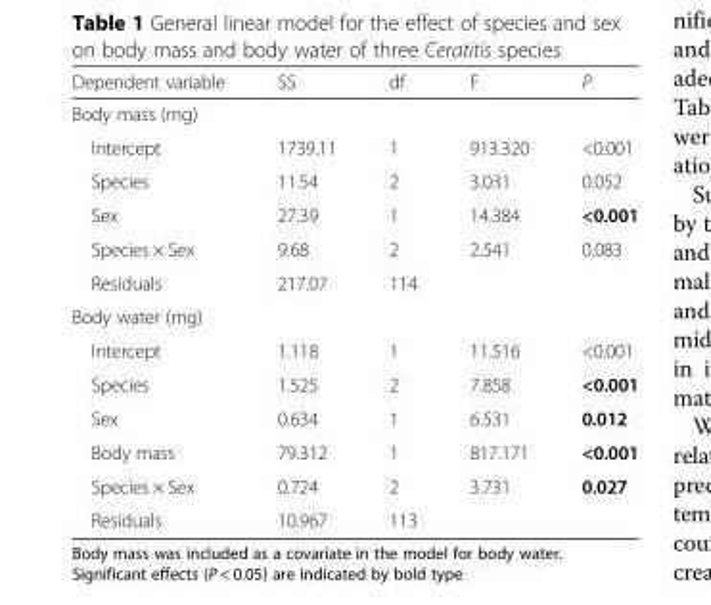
<table><thead><tr><td>Dependent variable</td><td>SS</td><td>df</td><td>F</td><td>P</td></tr></thead><tbody><tr><td colspan="5">Body mass (mg)</td></tr><tr><td>Intercept</td><td>1739.11</td><td>1</td><td>913.320</td><td>&lt;0.001</td></tr><tr><td>Species</td><td>11.54</td><td>2</td><td>3.031</td><td>0.052</td></tr><tr><td>Sex</td><td>27.39</td><td>1</td><td>14.384</td><td>&lt;0.001</td></tr><tr><td>Species × Sex</td><td>9.68</td><td>2</td><td>2.541</td><td>0.083</td></tr><tr><td>Residuals</td><td>217.07</td><td>114</td><td></td><td></td></tr><tr><td colspan="5">Body water (mg)</td></tr><tr><td>Intercept</td><td>1.118</td><td>1</td><td>11.516</td><td>&lt;0.001</td></tr><tr><td>Species</td><td>1.525</td><td>2</td><td>7.858</td><td>&lt;0.001</td></tr><tr><td>Sex</td><td>0.634</td><td>1</td><td>6.531</td><td>0.012</td></tr><tr><td>Body mass</td><td>79.312</td><td>1</td><td>817.171</td><td>&lt;0.001</td></tr><tr><td>Species × Sex</td><td>0.724</td><td>2</td><td>3.731</td><td>0.027</td></tr><tr><td>Residuals</td><td>10.967</td><td>113</td><td></td><td></td></tr></tbody></table>